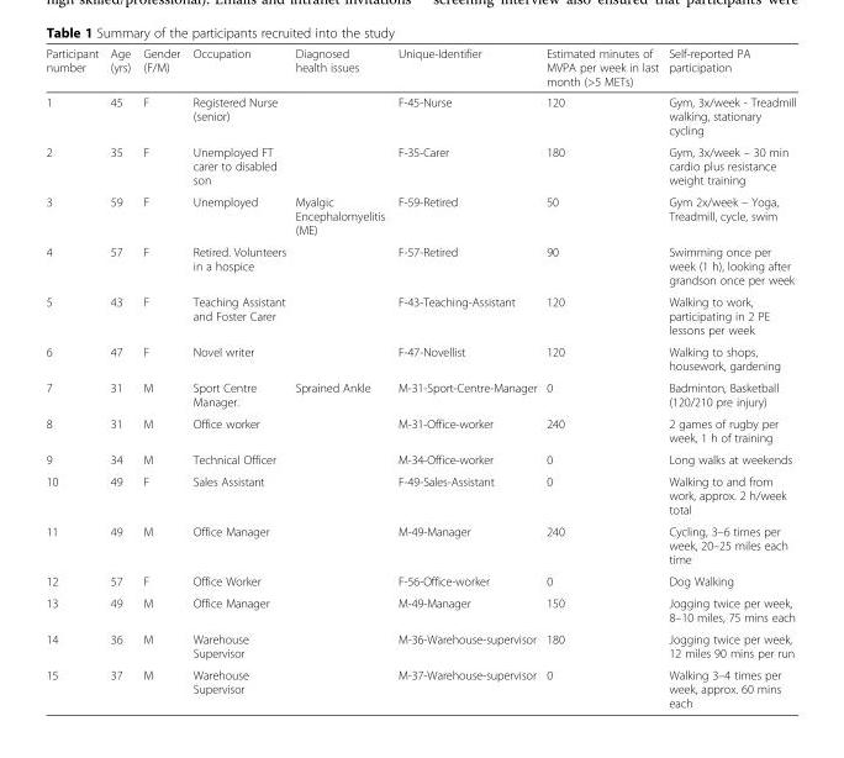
<table><thead><tr><td>Participant number</td><td>Age (yrs)</td><td>Gender (F/M)</td><td>Occupation</td><td>Diagnosed health issues</td><td>Unique-Identifier</td><td>Estimated minutes of MVPA per week in last month (&gt;5 METs)</td><td>Self-reported PA participation</td></tr></thead><tbody><tr><td>1</td><td>45</td><td>F</td><td>Registered Nurse (senior)</td><td></td><td>F-45-Nurse</td><td>120</td><td>Gym, 3x/week - Treadmill walking, stationary cycling</td></tr><tr><td>2</td><td>35</td><td>F</td><td>Unemployed FT carer to disabled son</td><td></td><td>F-35-Carer</td><td>180</td><td>Gym, 3x/week – 30 min cardio plus resistance weight training</td></tr><tr><td>3</td><td>59</td><td>F</td><td>Unemployed</td><td>Myalgic Encephalomyelitis (ME)</td><td>F-59-Retired</td><td>50</td><td>Gym 2x/week – Yoga, Treadmill, cycle, swim</td></tr><tr><td>4</td><td>57</td><td>F</td><td>Retired. Volunteers in a hospice</td><td></td><td>F-57-Retired</td><td>90</td><td>Swimming once per week (1 h), looking after grandson once per week</td></tr><tr><td>5</td><td>43</td><td>F</td><td>Teaching Assistant and Foster Carer</td><td></td><td>F-43-Teaching-Assistant</td><td>120</td><td>Walking to work, participating in 2 PE lessons per week</td></tr><tr><td>6</td><td>47</td><td>F</td><td>Novel writer</td><td></td><td>F-47-Novellist</td><td>120</td><td>Walking to shops, housework, gardening</td></tr><tr><td>7</td><td>31</td><td>M</td><td>Sport Centre Manager.</td><td>Sprained Ankle</td><td>M-31-Sport-Centre-Manager</td><td>0</td><td>Badminton, Basketball (120/210 pre injury)</td></tr><tr><td>8</td><td>31</td><td>M</td><td>Office worker</td><td></td><td>M-31-Office-worker</td><td>240</td><td>2 games of rugby per week, 1 h of training</td></tr><tr><td>9</td><td>34</td><td>M</td><td>Technical Officer</td><td></td><td>M-34-Office-worker</td><td>0</td><td>Long walks at weekends</td></tr><tr><td>10</td><td>49</td><td>F</td><td>Sales Assistant</td><td></td><td>F-49-Sales-Assistant</td><td>0</td><td>Walking to and from work, approx. 2 h/week total</td></tr><tr><td>11</td><td>49</td><td>M</td><td>Office Manager</td><td></td><td>M-49-Manager</td><td>240</td><td>Cycling, 3–6 times per week, 20–25 miles each time</td></tr><tr><td>12</td><td>57</td><td>F</td><td>Office Worker</td><td></td><td>F-56-Office-worker</td><td>0</td><td>Dog Walking</td></tr><tr><td>13</td><td>49</td><td>M</td><td>Office Manager</td><td></td><td>M-49-Manager</td><td>150</td><td>Jogging twice per week, 8–10 miles, 75 mins each</td></tr><tr><td>14</td><td>36</td><td>M</td><td>Warehouse Supervisor</td><td></td><td>M-36-Warehouse-supervisor</td><td>180</td><td>Jogging twice per week, 12 miles 90 mins per run</td></tr><tr><td>15</td><td>37</td><td>M</td><td>Warehouse Supervisor</td><td></td><td>M-37-Warehouse-supervisor</td><td>0</td><td>Walking 3–4 times per week, approx. 60 mins each</td></tr></tbody></table>